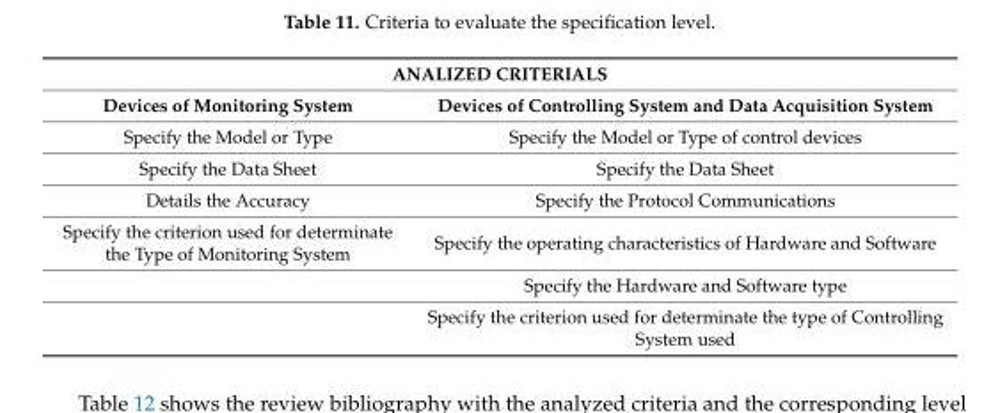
<table><thead><tr><td colspan="2">ANALIZED CRITERIALS</td></tr><tr><td>Devices of Monitoring System</td><td>Devices of Controlling System and Data Acquisition System</td></tr></thead><tbody><tr><td>Specify the Model or Type</td><td>Specify the Model or Type of control devices</td></tr><tr><td>Specify the Data Sheet</td><td>Specify the Data Sheet</td></tr><tr><td>Details the Accuracy</td><td>Specify the Protocol Communications</td></tr><tr><td rowspan="3">Specify the criterion used for determinate the Type of Monitoring System</td><td>Specify the operating characteristics of Hardware and Software</td></tr><tr><td>Specify the Hardware and Software type</td></tr><tr><td>Specify the criterion used for determinate the type of Controlling System used</td></tr></tbody></table>